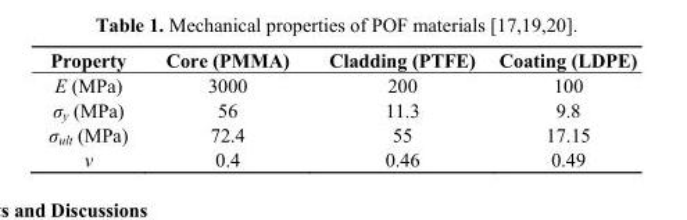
<table><thead><tr><td>Property</td><td>Core (PMMA)</td><td>Cladding (PTFE)</td><td>Coating (LDPE)</td></tr></thead><tbody><tr><td>E (MPa)</td><td>3000</td><td>200</td><td>100</td></tr><tr><td>σ<sub>y</sub> (MPa)</td><td>56</td><td>11.3</td><td>9.8</td></tr><tr><td>σ<sub>ult</sub> (MPa)</td><td>72.4</td><td>55</td><td>17.15</td></tr><tr><td>ν</td><td>0.4</td><td>0.46</td><td>0.49</td></tr></tbody></table>